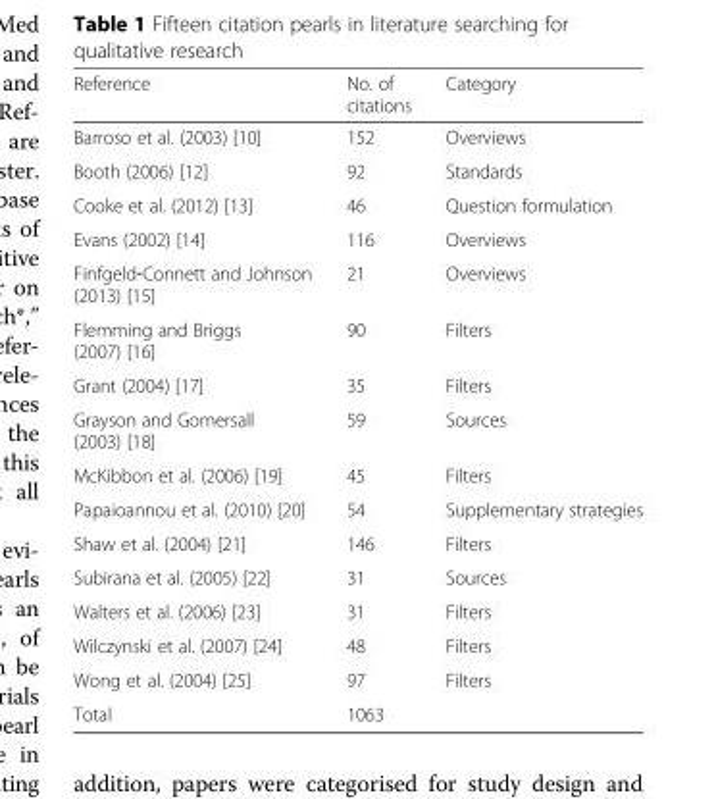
<table><thead><tr><td>Reference</td><td>No. of citations</td><td>Category</td></tr></thead><tbody><tr><td>Barroso et al. (2003) [10]</td><td>152</td><td>Overviews</td></tr><tr><td>Booth (2006) [12]</td><td>92</td><td>Standards</td></tr><tr><td>Cooke et al. (2012) [13]</td><td>46</td><td>Question formulation</td></tr><tr><td>Evans (2002) [14]</td><td>116</td><td>Overviews</td></tr><tr><td>Finfgeld‐Connett and Johnson (2013) [15]</td><td>21</td><td>Overviews</td></tr><tr><td>Flemming and Briggs (2007) [16]</td><td>90</td><td>Filters</td></tr><tr><td>Grant (2004) [17]</td><td>35</td><td>Filters</td></tr><tr><td>Grayson and Gomersall (2003) [18]</td><td>59</td><td>Sources</td></tr><tr><td>McKibbon et al. (2006) [19]</td><td>45</td><td>Filters</td></tr><tr><td>Papaioannou et al. (2010) [20]</td><td>54</td><td>Supplementary strategies</td></tr><tr><td>Shaw et al. (2004) [21]</td><td>146</td><td>Filters</td></tr><tr><td>Subirana et al. (2005) [22]</td><td>31</td><td>Sources</td></tr><tr><td>Walters et al. (2006) [23]</td><td>31</td><td>Filters</td></tr><tr><td>Wilczynski et al. (2007) [24]</td><td>48</td><td>Filters</td></tr><tr><td>Wong et al. (2004) [25]</td><td>97</td><td>Filters</td></tr><tr><td>Total</td><td>1063</td><td></td></tr></tbody></table>